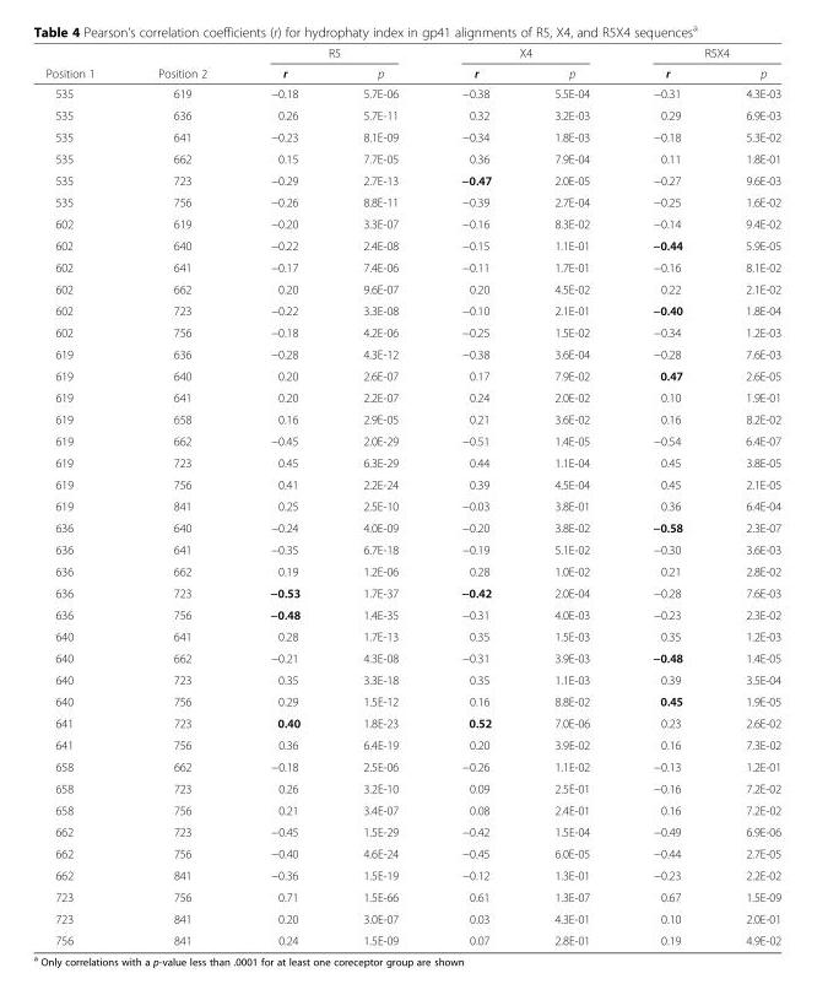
<table><thead><tr><td rowspan="2">Position 1</td><td rowspan="2">Position 2</td><td colspan="2">R5</td><td colspan="2">X4</td><td colspan="2">R5X4</td></tr><tr><td>r</td><td>p</td><td>r</td><td>p</td><td>r</td><td>p</td></tr></thead><tbody><tr><td>535</td><td>619</td><td>−0.18</td><td>5.7E-06</td><td>−0.38</td><td>5.5E-04</td><td>−0.31</td><td>4.3E-03</td></tr><tr><td>535</td><td>636</td><td>0.26</td><td>5.7E-11</td><td>0.32</td><td>3.2E-03</td><td>0.29</td><td>6.9E-03</td></tr><tr><td>535</td><td>641</td><td>−0.23</td><td>8.1E-09</td><td>−0.34</td><td>1.8E-03</td><td>−0.18</td><td>5.3E-02</td></tr><tr><td>535</td><td>662</td><td>0.15</td><td>7.7E-05</td><td>0.36</td><td>7.9E-04</td><td>0.11</td><td>1.8E-01</td></tr><tr><td>535</td><td>723</td><td>−0.29</td><td>2.7E-13</td><td>−0.47</td><td>2.0E-05</td><td>−0.27</td><td>9.6E-03</td></tr><tr><td>535</td><td>756</td><td>−0.26</td><td>8.8E-11</td><td>−0.39</td><td>2.7E-04</td><td>−0.25</td><td>1.6E-02</td></tr><tr><td>602</td><td>619</td><td>−0.20</td><td>3.3E-07</td><td>−0.16</td><td>8.3E-02</td><td>−0.14</td><td>9.4E-02</td></tr><tr><td>602</td><td>640</td><td>−0.22</td><td>2.4E-08</td><td>−0.15</td><td>1.1E-01</td><td>−0.44</td><td>5.9E-05</td></tr><tr><td>602</td><td>641</td><td>−0.17</td><td>7.4E-06</td><td>−0.11</td><td>1.7E-01</td><td>−0.16</td><td>8.1E-02</td></tr><tr><td>602</td><td>662</td><td>0.20</td><td>9.6E-07</td><td>0.20</td><td>4.5E-02</td><td>0.22</td><td>2.1E-02</td></tr><tr><td>602</td><td>723</td><td>−0.22</td><td>3.3E-08</td><td>−0.10</td><td>2.1E-01</td><td>−0.40</td><td>1.8E-04</td></tr><tr><td>602</td><td>756</td><td>−0.18</td><td>4.2E-06</td><td>−0.25</td><td>1.5E-02</td><td>−0.34</td><td>1.2E-03</td></tr><tr><td>619</td><td>636</td><td>−0.28</td><td>4.3E-12</td><td>−0.38</td><td>3.6E-04</td><td>−0.28</td><td>7.6E-03</td></tr><tr><td>619</td><td>640</td><td>0.20</td><td>2.6E-07</td><td>0.17</td><td>7.9E-02</td><td>0.47</td><td>2.6E-05</td></tr><tr><td>619</td><td>641</td><td>0.20</td><td>2.2E-07</td><td>0.24</td><td>2.0E-02</td><td>0.10</td><td>1.9E-01</td></tr><tr><td>619</td><td>658</td><td>0.16</td><td>2.9E-05</td><td>0.21</td><td>3.6E-02</td><td>0.16</td><td>8.2E-02</td></tr><tr><td>619</td><td>662</td><td>−0.45</td><td>2.0E-29</td><td>−0.51</td><td>1.4E-05</td><td>−0.54</td><td>6.4E-07</td></tr><tr><td>619</td><td>723</td><td>0.45</td><td>6.3E-29</td><td>0.44</td><td>1.1E-04</td><td>0.45</td><td>3.8E-05</td></tr><tr><td>619</td><td>756</td><td>0.41</td><td>2.2E-24</td><td>0.39</td><td>4.5E-04</td><td>0.45</td><td>2.1E-05</td></tr><tr><td>619</td><td>841</td><td>0.25</td><td>2.5E-10</td><td>−0.03</td><td>3.8E-01</td><td>0.36</td><td>6.4E-04</td></tr><tr><td>636</td><td>640</td><td>−0.24</td><td>4.0E-09</td><td>−0.20</td><td>3.8E-02</td><td>−0.58</td><td>2.3E-07</td></tr><tr><td>636</td><td>641</td><td>−0.35</td><td>6.7E-18</td><td>−0.19</td><td>5.1E-02</td><td>−0.30</td><td>3.6E-03</td></tr><tr><td>636</td><td>662</td><td>0.19</td><td>1.2E-06</td><td>0.28</td><td>1.0E-02</td><td>0.21</td><td>2.8E-02</td></tr><tr><td>636</td><td>723</td><td>−0.53</td><td>1.7E-37</td><td>−0.42</td><td>2.0E-04</td><td>−0.28</td><td>7.6E-03</td></tr><tr><td>636</td><td>756</td><td>−0.48</td><td>1.4E-35</td><td>−0.31</td><td>4.0E-03</td><td>−0.23</td><td>2.3E-02</td></tr><tr><td>640</td><td>641</td><td>0.28</td><td>1.7E-13</td><td>0.35</td><td>1.5E-03</td><td>0.35</td><td>1.2E-03</td></tr><tr><td>640</td><td>662</td><td>−0.21</td><td>4.3E-08</td><td>−0.31</td><td>3.9E-03</td><td>−0.48</td><td>1.4E-05</td></tr><tr><td>640</td><td>723</td><td>0.35</td><td>3.3E-18</td><td>0.35</td><td>1.1E-03</td><td>0.39</td><td>3.5E-04</td></tr><tr><td>640</td><td>756</td><td>0.29</td><td>1.5E-12</td><td>0.16</td><td>8.8E-02</td><td>0.45</td><td>1.9E-05</td></tr><tr><td>641</td><td>723</td><td>0.40</td><td>1.8E-23</td><td>0.52</td><td>7.0E-06</td><td>0.23</td><td>2.6E-02</td></tr><tr><td>641</td><td>756</td><td>0.36</td><td>6.4E-19</td><td>0.20</td><td>3.9E-02</td><td>0.16</td><td>7.3E-02</td></tr><tr><td>658</td><td>662</td><td>−0.18</td><td>2.5E-06</td><td>−0.26</td><td>1.1E-02</td><td>−0.13</td><td>1.2E-01</td></tr><tr><td>658</td><td>723</td><td>0.26</td><td>3.2E-10</td><td>0.09</td><td>2.5E-01</td><td>−0.16</td><td>7.2E-02</td></tr><tr><td>658</td><td>756</td><td>0.21</td><td>3.4E-07</td><td>0.08</td><td>2.4E-01</td><td>0.16</td><td>7.2E-02</td></tr><tr><td>662</td><td>723</td><td>−0.45</td><td>1.5E-29</td><td>−0.42</td><td>1.5E-04</td><td>−0.49</td><td>6.9E-06</td></tr><tr><td>662</td><td>756</td><td>−0.40</td><td>4.6E-24</td><td>−0.45</td><td>6.0E-05</td><td>−0.44</td><td>2.7E-05</td></tr><tr><td>662</td><td>841</td><td>−0.36</td><td>1.5E-19</td><td>−0.12</td><td>1.3E-01</td><td>−0.23</td><td>2.2E-02</td></tr><tr><td>723</td><td>756</td><td>0.71</td><td>1.5E-66</td><td>0.61</td><td>1.3E-07</td><td>0.67</td><td>1.5E-09</td></tr><tr><td>723</td><td>841</td><td>0.20</td><td>3.0E-07</td><td>0.03</td><td>4.3E-01</td><td>0.10</td><td>2.0E-01</td></tr><tr><td>756</td><td>841</td><td>0.24</td><td>1.5E-09</td><td>0.07</td><td>2.8E-01</td><td>0.19</td><td>4.9E-02</td></tr></tbody></table>